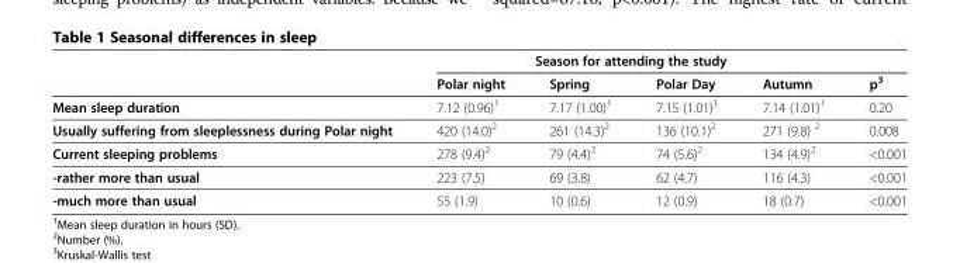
<table><thead><tr><td rowspan="2"></td><td colspan="4">Season for attending the study</td><td rowspan="2">p<sup>3</sup></td></tr><tr><td>Polar night</td><td>Spring</td><td>Polar Day</td><td>Autumn</td></tr></thead><tbody><tr><td>Mean sleep duration</td><td>7.12 (0.96)<sup>1</sup></td><td>7.17 (1.00)<sup>1</sup></td><td>7.15 (1.01)<sup>1</sup></td><td>7.14 (1.01)<sup>1</sup></td><td>0.20</td></tr><tr><td>Usually suffering from sleeplessness during Polar night</td><td>420 (14.0)<sup>2</sup></td><td>261 (14.3)<sup>2</sup></td><td>136 (10.1)<sup>2</sup></td><td>271 (9.8) <sup>2</sup></td><td>0.008</td></tr><tr><td>Current sleeping problems</td><td>278 (9.4)<sup>2</sup></td><td>79 (4.4)<sup>2</sup></td><td>74 (5.6)<sup>2</sup></td><td>134 (4.9)<sup>2</sup></td><td>&lt;0.001</td></tr><tr><td>-rather more than usual</td><td>223 (7.5)</td><td>69 (3.8)</td><td>62 (4.7)</td><td>116 (4.3)</td><td>&lt;0.001</td></tr><tr><td>-much more than usual</td><td>55 (1.9)</td><td>10 (0.6)</td><td>12 (0.9)</td><td>18 (0.7)</td><td>&lt;0.001</td></tr></tbody></table>